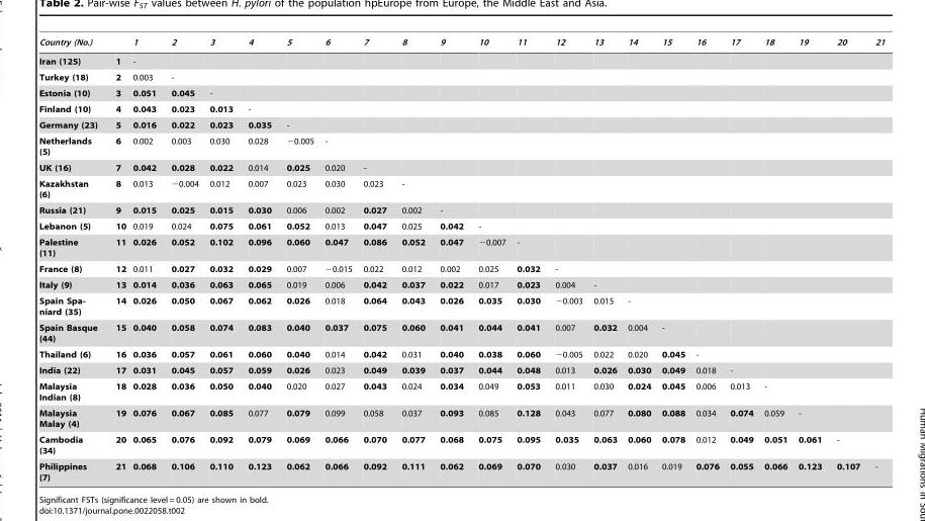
<table><thead><tr><td>Country (No.)</td><td></td><td>1</td><td>2</td><td>3</td><td>4</td><td>5</td><td>6</td><td>7</td><td>8</td><td>9</td><td>10</td><td>11</td><td>12</td><td>13</td><td>14</td><td>15</td><td>16</td><td>17</td><td>18</td><td>19</td><td>20</td><td>21</td></tr></thead><tbody><tr><td>Iran (125)</td><td>1</td><td>-</td><td></td><td></td><td></td><td></td><td></td><td></td><td></td><td></td><td></td><td></td><td></td><td></td><td></td><td></td><td></td><td></td><td></td><td></td><td></td><td></td></tr><tr><td>Turkey (18)</td><td>2</td><td>0.003</td><td>-</td><td></td><td></td><td></td><td></td><td></td><td></td><td></td><td></td><td></td><td></td><td></td><td></td><td></td><td></td><td></td><td></td><td></td><td></td><td></td></tr><tr><td>Estonia (10)</td><td>3</td><td>0.051</td><td>0.045</td><td>-</td><td></td><td></td><td></td><td></td><td></td><td></td><td></td><td></td><td></td><td></td><td></td><td></td><td></td><td></td><td></td><td></td><td></td><td></td></tr><tr><td>Finland (10)</td><td>4</td><td>0.043</td><td>0.023</td><td>0.013</td><td>-</td><td></td><td></td><td></td><td></td><td></td><td></td><td></td><td></td><td></td><td></td><td></td><td></td><td></td><td></td><td></td><td></td><td></td></tr><tr><td>Germany (23)</td><td>5</td><td>0.016</td><td>0.022</td><td>0.023</td><td>0.035</td><td>-</td><td></td><td></td><td></td><td></td><td></td><td></td><td></td><td></td><td></td><td></td><td></td><td></td><td></td><td></td><td></td><td></td></tr><tr><td>Netherlands (5)</td><td>6</td><td>0.002</td><td>0.003</td><td>0.030</td><td>0.028</td><td>−0.005</td><td>-</td><td></td><td></td><td></td><td></td><td></td><td></td><td></td><td></td><td></td><td></td><td></td><td></td><td></td><td></td><td></td></tr><tr><td>UK (16)</td><td>7</td><td>0.042</td><td>0.028</td><td>0.022</td><td>0.014</td><td>0.025</td><td>0.020</td><td>-</td><td></td><td></td><td></td><td></td><td></td><td></td><td></td><td></td><td></td><td></td><td></td><td></td><td></td><td></td></tr><tr><td>Kazakhstan (6)</td><td>8</td><td>0.013</td><td>−0.004</td><td>0.012</td><td>0.007</td><td>0.023</td><td>0.030</td><td>0.023</td><td>-</td><td></td><td></td><td></td><td></td><td></td><td></td><td></td><td></td><td></td><td></td><td></td><td></td><td></td></tr><tr><td>Russia (21)</td><td>9</td><td>0.015</td><td>0.025</td><td>0.015</td><td>0.030</td><td>0.006</td><td>0.002</td><td>0.027</td><td>0.002</td><td>-</td><td></td><td></td><td></td><td></td><td></td><td></td><td></td><td></td><td></td><td></td><td></td><td></td></tr><tr><td>Lebanon (5)</td><td>10</td><td>0.019</td><td>0.024</td><td>0.075</td><td>0.061</td><td>0.052</td><td>0.013</td><td>0.047</td><td>0.025</td><td>0.042</td><td>-</td><td></td><td></td><td></td><td></td><td></td><td></td><td></td><td></td><td></td><td></td><td></td></tr><tr><td>Palestine (11)</td><td>11</td><td>0.026</td><td>0.052</td><td>0.102</td><td>0.096</td><td>0.060</td><td>0.047</td><td>0.086</td><td>0.052</td><td>0.047</td><td>−0.007</td><td>-</td><td></td><td></td><td></td><td></td><td></td><td></td><td></td><td></td><td></td><td></td></tr><tr><td>France (8)</td><td>12</td><td>0.011</td><td>0.027</td><td>0.032</td><td>0.029</td><td>0.007</td><td>−0.015</td><td>0.022</td><td>0.012</td><td>0.002</td><td>0.025</td><td>0.032</td><td>-</td><td></td><td></td><td></td><td></td><td></td><td></td><td></td><td></td><td></td></tr><tr><td>Italy (9)</td><td>13</td><td>0.014</td><td>0.036</td><td>0.063</td><td>0.065</td><td>0.019</td><td>0.006</td><td>0.042</td><td>0.037</td><td>0.022</td><td>0.017</td><td>0.023</td><td>0.004</td><td>-</td><td></td><td></td><td></td><td></td><td></td><td></td><td></td><td></td></tr><tr><td>Spain Spa- niard (35)</td><td>14</td><td>0.026</td><td>0.050</td><td>0.067</td><td>0.062</td><td>0.026</td><td>0.018</td><td>0.064</td><td>0.043</td><td>0.026</td><td>0.035</td><td>0.030</td><td>−0.003</td><td>0.015</td><td>-</td><td></td><td></td><td></td><td></td><td></td><td></td><td></td></tr><tr><td>Spain Basque (44)</td><td>15</td><td>0.040</td><td>0.058</td><td>0.074</td><td>0.083</td><td>0.040</td><td>0.037</td><td>0.075</td><td>0.060</td><td>0.041</td><td>0.044</td><td>0.041</td><td>0.007</td><td>0.032</td><td>0.004</td><td>-</td><td></td><td></td><td></td><td></td><td></td><td></td></tr><tr><td>Thailand (6)</td><td>16</td><td>0.036</td><td>0.057</td><td>0.061</td><td>0.060</td><td>0.040</td><td>0.014</td><td>0.042</td><td>0.031</td><td>0.040</td><td>0.038</td><td>0.060</td><td>−0.005</td><td>0.022</td><td>0.020</td><td>0.045</td><td>-</td><td></td><td></td><td></td><td></td><td></td></tr><tr><td>India (22)</td><td>17</td><td>0.031</td><td>0.045</td><td>0.057</td><td>0.059</td><td>0.026</td><td>0.023</td><td>0.049</td><td>0.039</td><td>0.037</td><td>0.044</td><td>0.048</td><td>0.013</td><td>0.026</td><td>0.030</td><td>0.049</td><td>0.018</td><td>-</td><td></td><td></td><td></td><td></td></tr><tr><td>Malaysia Indian (8)</td><td>18</td><td>0.028</td><td>0.036</td><td>0.050</td><td>0.040</td><td>0.020</td><td>0.027</td><td>0.043</td><td>0.024</td><td>0.034</td><td>0.049</td><td>0.053</td><td>0.011</td><td>0.030</td><td>0.024</td><td>0.045</td><td>0.006</td><td>0.013</td><td>-</td><td></td><td></td><td></td></tr><tr><td>Malaysia Malay (4)</td><td>19</td><td>0.076</td><td>0.067</td><td>0.085</td><td>0.077</td><td>0.079</td><td>0.099</td><td>0.058</td><td>0.037</td><td>0.093</td><td>0.085</td><td>0.128</td><td>0.043</td><td>0.077</td><td>0.080</td><td>0.088</td><td>0.034</td><td>0.074</td><td>0.059</td><td>-</td><td></td><td></td></tr><tr><td>Cambodia (34)</td><td>20</td><td>0.065</td><td>0.076</td><td>0.092</td><td>0.079</td><td>0.069</td><td>0.066</td><td>0.070</td><td>0.077</td><td>0.068</td><td>0.075</td><td>0.095</td><td>0.035</td><td>0.063</td><td>0.060</td><td>0.078</td><td>0.012</td><td>0.049</td><td>0.051</td><td>0.061</td><td>-</td><td></td></tr><tr><td>Philippines (7)</td><td>21</td><td>0.068</td><td>0.106</td><td>0.110</td><td>0.123</td><td>0.062</td><td>0.066</td><td>0.092</td><td>0.111</td><td>0.062</td><td>0.069</td><td>0.070</td><td>0.030</td><td>0.037</td><td>0.016</td><td>0.019</td><td>0.076</td><td>0.055</td><td>0.066</td><td>0.123</td><td>0.107</td><td>-</td></tr></tbody></table>